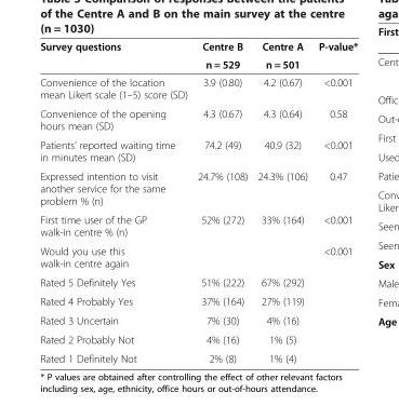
<table><thead><tr><td rowspan="2">Survey questions</td><td rowspan="2">Centre B n = 529</td><td rowspan="2">Centre A n = 501</td><td rowspan="2">P-value*</td></tr><tr></tr></thead><tbody><tr><td>Convenience of the location mean Likert scale (1–5) score (SD)</td><td>3.9 (0.80)</td><td>4.2 (0.67)</td><td>&lt;0.001</td></tr><tr><td>Convenience of the opening hours mean (SD)</td><td>4.3 (0.67)</td><td>4.3 (0.64)</td><td>0.58</td></tr><tr><td>Patients’ reported waiting time in minutes mean (SD)</td><td>74.2 (49)</td><td>40.9 (32)</td><td>&lt;0.001</td></tr><tr><td>Expressed intention to visit another service for the same problem % (n)</td><td>24.7% (108)</td><td>24.3% (106)</td><td>0.47</td></tr><tr><td>First time user of the GP walk-in centre % (n)</td><td>52% (272)</td><td>33% (164)</td><td>&lt;0.001</td></tr><tr><td colspan="3">Would you use this walk-in centre again</td><td rowspan="5">&lt;0.001</td></tr><tr><td>Rated 5 Definitely Yes</td><td>51% (222)</td><td>67% (292)</td></tr><tr><td>Rated 4 Probably Yes</td><td>37% (164)</td><td>27% (119)</td></tr><tr><td>Rated 3 Uncertain</td><td>7% (30)</td><td>4% (16)</td></tr><tr><td>Rated 2 Probably Not</td><td>4% (16)</td><td>1% (5)</td></tr><tr><td>Rated 1 Definitely Not</td><td>2% (8)</td><td>1% (4)</td><td></td></tr></tbody></table>